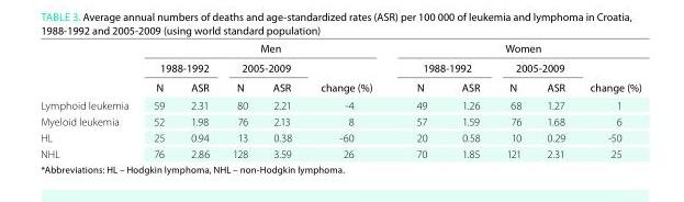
<table><thead><tr><td rowspan="3"></td><td colspan="5">Men</td><td colspan="5">Women</td></tr><tr><td colspan="2">1988-1992</td><td colspan="2">2005-2009</td><td rowspan="2">change (%)</td><td colspan="2">1988-1992</td><td colspan="2">2005-2009</td><td rowspan="2">change (%)</td></tr><tr><td>N</td><td>ASr</td><td>N</td><td>ASr</td><td>N</td><td>ASr</td><td>N</td><td>ASr</td></tr></thead><tbody><tr><td>Lymphoid leukemia</td><td>59</td><td>2.31</td><td>80</td><td>2.21</td><td>-4</td><td>49</td><td>1.26</td><td>68</td><td>1.27</td><td>1</td></tr><tr><td>Myeloid leukemia</td><td>52</td><td>1.98</td><td>76</td><td>2.13</td><td>8</td><td>57</td><td>1.59</td><td>76</td><td>1.68</td><td>6</td></tr><tr><td>HL</td><td>25</td><td>0.94</td><td>13</td><td>0.38</td><td>-60</td><td>20</td><td>0.58</td><td>10</td><td>0.29</td><td>-50</td></tr><tr><td>NHL</td><td>76</td><td>2.86</td><td>128</td><td>3.59</td><td>26</td><td>70</td><td>1.85</td><td>121</td><td>2.31</td><td>25</td></tr></tbody></table>